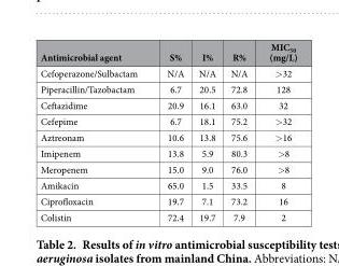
<table><thead><tr><td>Antimicrobial agent</td><td>S%</td><td>I%</td><td>R%</td><td>MIC<sub>50</sub> (mg/L)</td></tr></thead><tbody><tr><td>Cefoperazone/Sulbactam</td><td>N/A</td><td>N/A</td><td>N/A</td><td>&gt; 32</td></tr><tr><td>Piperacillin/Tazobactam</td><td>6.7</td><td>20.5</td><td>72.8</td><td>128</td></tr><tr><td>Ceftazidime</td><td>20.9</td><td>16.1</td><td>63.0</td><td>32</td></tr><tr><td>Cefepime</td><td>6.7</td><td>18.1</td><td>75.2</td><td>&gt; 32</td></tr><tr><td>Aztreonam</td><td>10.6</td><td>13.8</td><td>75.6</td><td>&gt; 16</td></tr><tr><td>Imipenem</td><td>13.8</td><td>5.9</td><td>80.3</td><td>&gt; 8</td></tr><tr><td>Meropenem</td><td>15.0</td><td>9.0</td><td>76.0</td><td>&gt; 8</td></tr><tr><td>Amikacin</td><td>65.0</td><td>1.5</td><td>33.5</td><td>8</td></tr><tr><td>Ciprofloxacin</td><td>19.7</td><td>7.1</td><td>73.2</td><td>16</td></tr><tr><td>Colistin</td><td>72.4</td><td>19.7</td><td>7.9</td><td>2</td></tr></tbody></table>